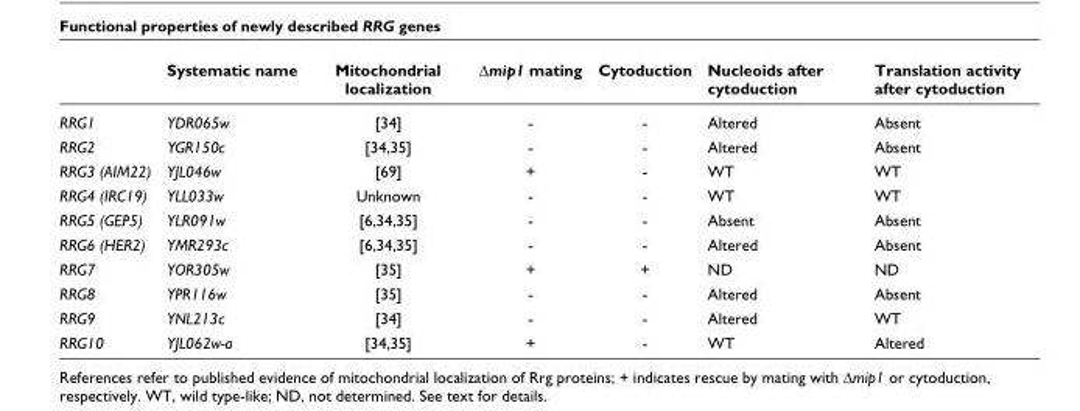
<table><thead><tr><td></td><td>Systematic name</td><td>Mitochondrial localization</td><td>Δmip1 mating</td><td>Cytoduction</td><td>Nucleoids after cytoduction</td><td>Translation activity after cytoduction</td></tr></thead><tbody><tr><td>RRG1</td><td>YDR065w</td><td>[34]</td><td>-</td><td>-</td><td>Altered</td><td>Absent</td></tr><tr><td>RRG2</td><td>YGR150c</td><td>[34,35]</td><td>-</td><td>-</td><td>Altered</td><td>Absent</td></tr><tr><td>RRG3 (AIM22)</td><td>YJL046w</td><td>[69]</td><td>+</td><td>-</td><td>WT</td><td>WT</td></tr><tr><td>RRG4 (IRC19)</td><td>YLL033w</td><td>Unknown</td><td>-</td><td>-</td><td>WT</td><td>WT</td></tr><tr><td>RRG5 (GEP5)</td><td>YLR091w</td><td>[6,34,35]</td><td>-</td><td>-</td><td>Absent</td><td>Absent</td></tr><tr><td>RRG6 (HER2)</td><td>YMR293c</td><td>[6,34,35]</td><td>-</td><td>-</td><td>Altered</td><td>Absent</td></tr><tr><td>RRG7</td><td>YOR305w</td><td>[35]</td><td>+</td><td>+</td><td>ND</td><td>ND</td></tr><tr><td>RRG8</td><td>YPR116w</td><td>[35]</td><td>-</td><td>-</td><td>Altered</td><td>Absent</td></tr><tr><td>RRG9</td><td>YNL213c</td><td>[34]</td><td>-</td><td>-</td><td>Altered</td><td>WT</td></tr><tr><td>RRG10</td><td>YJL062w-a</td><td>[34,35]</td><td>+</td><td>-</td><td>WT</td><td>Altered</td></tr></tbody></table>